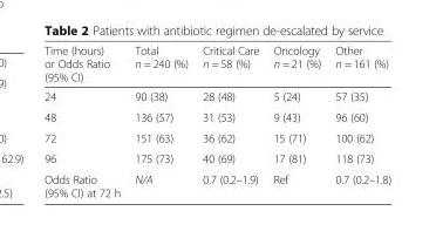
<table><thead><tr><td>Time (hours) or Odds Ratio (95% CI)</td><td>Total n = 240 (%)</td><td>Critical Care n = 58 (%)</td><td>Oncology n = 21 (%)</td><td>Other n = 161 (%)</td></tr></thead><tbody><tr><td>24</td><td>90 (38)</td><td>28 (48)</td><td>5 (24)</td><td>57 (35)</td></tr><tr><td>48</td><td>136 (57)</td><td>31 (53)</td><td>9 (43)</td><td>96 (60)</td></tr><tr><td>72</td><td>151 (63)</td><td>36 (62)</td><td>15 (71)</td><td>100 (62)</td></tr><tr><td>96</td><td>175 (73)</td><td>40 (69)</td><td>17 (81)</td><td>118 (73)</td></tr><tr><td>Odds Ratio (95% CI) at 72 h</td><td>N/A</td><td>0.7 (0.2–1.9)</td><td>Ref</td><td>0.7 (0.2–1.8)</td></tr></tbody></table>